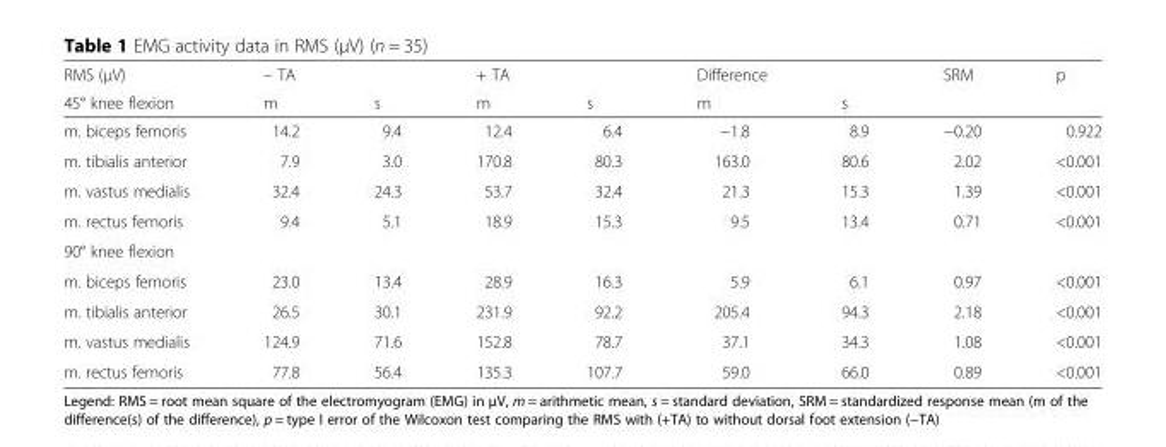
<table><thead><tr><td rowspan="2">RMS (μV) 45° knee flexion</td><td rowspan="2">– TA m</td><td rowspan="2">s</td><td rowspan="2">+ TA m</td><td rowspan="2">s</td><td rowspan="2">Difference m</td><td rowspan="2">s</td><td rowspan="2">SRM</td><td rowspan="2">p</td></tr><tr></tr></thead><tbody><tr><td>m. biceps femoris</td><td>14.2</td><td>9.4</td><td>12.4</td><td>6.4</td><td>−1.8</td><td>8.9</td><td>−0.20</td><td>0.922</td></tr><tr><td>m. tibialis anterior</td><td>7.9</td><td>3.0</td><td>170.8</td><td>80.3</td><td>163.0</td><td>80.6</td><td>2.02</td><td>&lt;0.001</td></tr><tr><td>m. vastus medialis</td><td>32.4</td><td>24.3</td><td>53.7</td><td>32.4</td><td>21.3</td><td>15.3</td><td>1.39</td><td>&lt;0.001</td></tr><tr><td>m. rectus femoris</td><td>9.4</td><td>5.1</td><td>18.9</td><td>15.3</td><td>9.5</td><td>13.4</td><td>0.71</td><td>&lt;0.001</td></tr><tr><td colspan="9">90° knee flexion</td></tr><tr><td>m. biceps femoris</td><td>23.0</td><td>13.4</td><td>28.9</td><td>16.3</td><td>5.9</td><td>6.1</td><td>0.97</td><td>&lt;0.001</td></tr><tr><td>m. tibialis anterior</td><td>26.5</td><td>30.1</td><td>231.9</td><td>92.2</td><td>205.4</td><td>94.3</td><td>2.18</td><td>&lt;0.001</td></tr><tr><td>m. vastus medialis</td><td>124.9</td><td>71.6</td><td>152.8</td><td>78.7</td><td>37.1</td><td>34.3</td><td>1.08</td><td>&lt;0.001</td></tr><tr><td>m. rectus femoris</td><td>77.8</td><td>56.4</td><td>135.3</td><td>107.7</td><td>59.0</td><td>66.0</td><td>0.89</td><td>&lt;0.001</td></tr></tbody></table>